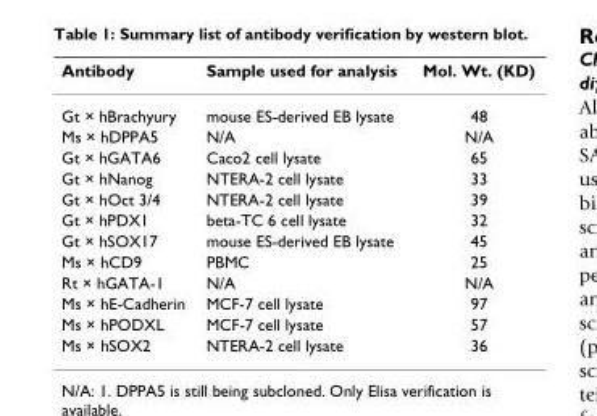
<table><thead><tr><td>Antibody</td><td>Sample used for analysis</td><td>Mol. Wt. (KD)</td></tr></thead><tbody><tr><td>Gt × hBrachyury</td><td>mouse ES-derived EB lysate</td><td>48</td></tr><tr><td>Ms × hDPPA5</td><td>N/A</td><td>N/A</td></tr><tr><td>Gt × hGATA6</td><td>Caco2 cell lysate</td><td>65</td></tr><tr><td>Gt × hNanog</td><td>NTERA-2 cell lysate</td><td>33</td></tr><tr><td>Gt × hOct 3/4</td><td>NTERA-2 cell lysate</td><td>39</td></tr><tr><td>Gt × hPDX1</td><td>beta-TC 6 cell lysate</td><td>32</td></tr><tr><td>Gt × hSOX17</td><td>mouse ES-derived EB lysate</td><td>45</td></tr><tr><td>Ms × hCD9</td><td>PBMC</td><td>25</td></tr><tr><td>Rt × hGATA-1</td><td>N/A</td><td>N/A</td></tr><tr><td>Ms × hE-Cadherin</td><td>MCF-7 cell lysate</td><td>97</td></tr><tr><td>Ms × hPODXL</td><td>MCF-7 cell lysate</td><td>57</td></tr><tr><td>Ms × hSOX2</td><td>NTERA-2 cell lysate</td><td>36</td></tr></tbody></table>